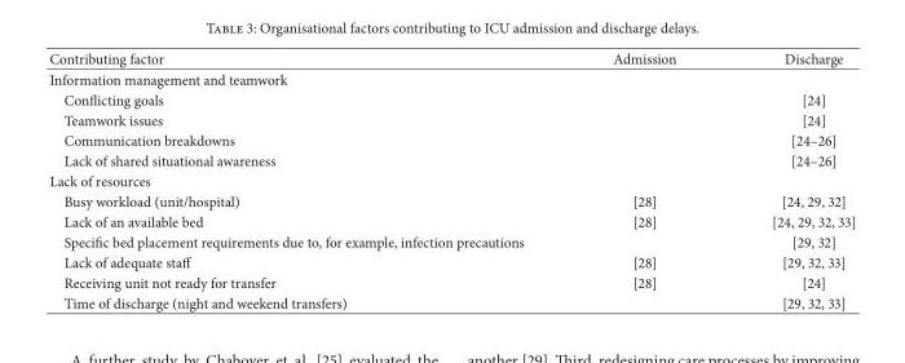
<table><thead><tr><td>Contributing factor</td><td>Admission</td><td>Discharge</td></tr></thead><tbody><tr><td colspan="3">Information management and teamwork</td></tr><tr><td>Conflicting goals</td><td></td><td>[24]</td></tr><tr><td>Teamwork issues</td><td></td><td>[24]</td></tr><tr><td>Communication breakdowns</td><td></td><td>[24–26]</td></tr><tr><td>Lack of shared situational awareness</td><td></td><td>[24–26]</td></tr><tr><td colspan="3">Lack of resources</td></tr><tr><td>Busy workload (unit/hospital)</td><td>[28]</td><td>[24, 29, 32]</td></tr><tr><td>Lack of an available bed</td><td>[28]</td><td>[24, 29, 32, 33]</td></tr><tr><td>Specific bed placement requirements due to, for example, infection precautions</td><td></td><td>[29, 32]</td></tr><tr><td>Lack of adequate staff</td><td>[28]</td><td>[29, 32, 33]</td></tr><tr><td>Receiving unit not ready for transfer</td><td>[28]</td><td>[24]</td></tr><tr><td>Time of discharge (night and weekend transfers)</td><td></td><td>[29, 32, 33]</td></tr></tbody></table>